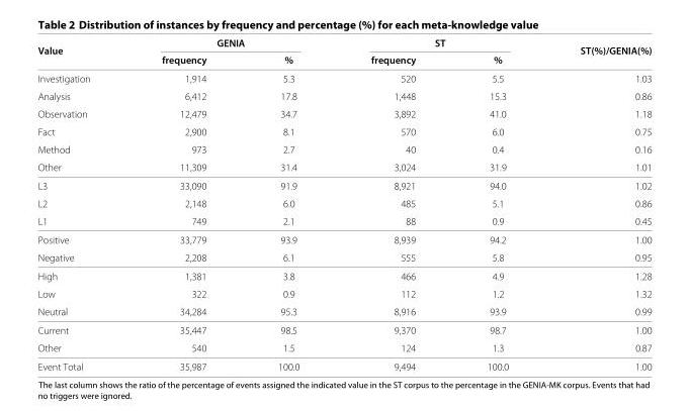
<table><thead><tr><td rowspan="2">Value</td><td colspan="2">GENIA</td><td colspan="2">ST</td><td rowspan="2">ST(%)/GENIA(%)</td></tr><tr><td>frequency</td><td>%</td><td>frequency</td><td>%</td></tr></thead><tbody><tr><td>Investigation</td><td>1,914</td><td>5.3</td><td>520</td><td>5.5</td><td>1.03</td></tr><tr><td>Analysis</td><td>6,412</td><td>17.8</td><td>1,448</td><td>15.3</td><td>0.86</td></tr><tr><td>Observation</td><td>12,479</td><td>34.7</td><td>3,892</td><td>41.0</td><td>1.18</td></tr><tr><td>Fact</td><td>2,900</td><td>8.1</td><td>570</td><td>6.0</td><td>0.75</td></tr><tr><td>Method</td><td>973</td><td>2.7</td><td>40</td><td>0.4</td><td>0.16</td></tr><tr><td>Other</td><td>11,309</td><td>31.4</td><td>3,024</td><td>31.9</td><td>1.01</td></tr><tr><td>L3</td><td>33,090</td><td>91.9</td><td>8,921</td><td>94.0</td><td>1.02</td></tr><tr><td>L2</td><td>2,148</td><td>6.0</td><td>485</td><td>5.1</td><td>0.86</td></tr><tr><td>L1</td><td>749</td><td>2.1</td><td>88</td><td>0.9</td><td>0.45</td></tr><tr><td>Positive</td><td>33,779</td><td>93.9</td><td>8,939</td><td>94.2</td><td>1.00</td></tr><tr><td>Negative</td><td>2,208</td><td>6.1</td><td>555</td><td>5.8</td><td>0.95</td></tr><tr><td>High</td><td>1,381</td><td>3.8</td><td>466</td><td>4.9</td><td>1.28</td></tr><tr><td>Low</td><td>322</td><td>0.9</td><td>112</td><td>1.2</td><td>1.32</td></tr><tr><td>Neutral</td><td>34,284</td><td>95.3</td><td>8,916</td><td>93.9</td><td>0.99</td></tr><tr><td>Current</td><td>35,447</td><td>98.5</td><td>9,370</td><td>98.7</td><td>1.00</td></tr><tr><td>Other</td><td>540</td><td>1.5</td><td>124</td><td>1.3</td><td>0.87</td></tr><tr><td>Event Total</td><td>35,987</td><td>100.0</td><td>9,494</td><td>100.0</td><td>1.00</td></tr></tbody></table>